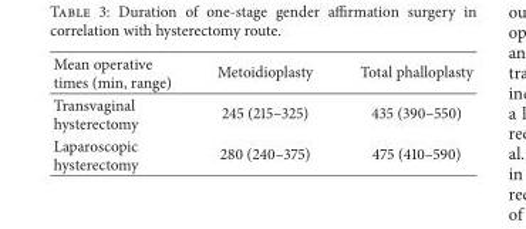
<table><thead><tr><td>Mean operative times (min, range)</td><td>Metoidioplasty</td><td>Total phalloplasty</td></tr></thead><tbody><tr><td>Transvaginal hysterectomy</td><td>245 (215–325)</td><td>435 (390–550)</td></tr><tr><td>Laparoscopic hysterectomy</td><td>280 (240–375)</td><td>475 (410–590)</td></tr></tbody></table>